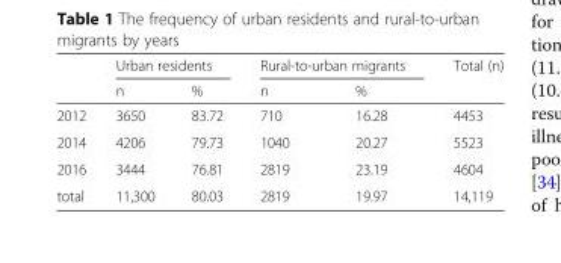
<table><thead><tr><td rowspan="2"></td><td colspan="2">Urban residents</td><td colspan="2">Rural-to-urban migrants</td><td rowspan="2">Total (n)</td></tr><tr><td>n</td><td>%</td><td>n</td><td>%</td></tr></thead><tbody><tr><td>2012</td><td>3650</td><td>83.72</td><td>710</td><td>16.28</td><td>4453</td></tr><tr><td>2014</td><td>4206</td><td>79.73</td><td>1040</td><td>20.27</td><td>5523</td></tr><tr><td>2016</td><td>3444</td><td>76.81</td><td>2819</td><td>23.19</td><td>4604</td></tr><tr><td>total</td><td>11,300</td><td>80.03</td><td>2819</td><td>19.97</td><td>14,119</td></tr></tbody></table>